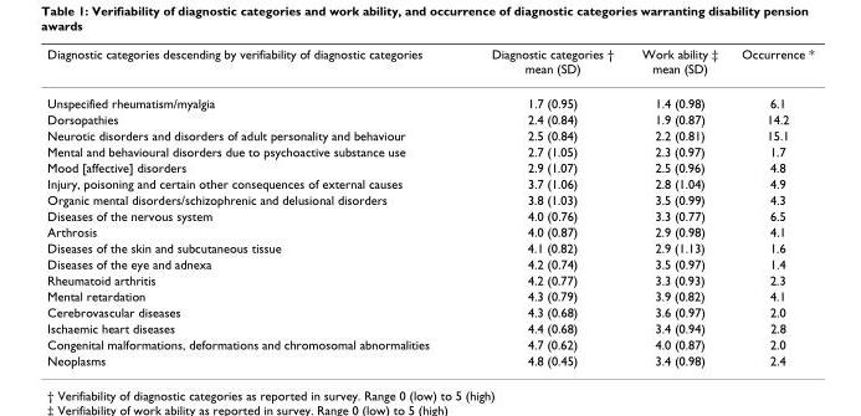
<table><thead><tr><td>Diagnostic categories descending by verifiability of diagnostic categories</td><td>Diagnostic categories † mean (SD)</td><td>Work ability ‡ mean (SD)</td><td>Occurrence *</td></tr></thead><tbody><tr><td>Unspecified rheumatism/myalgia</td><td>1.7 (0.95)</td><td>1.4 (0.98)</td><td>6.1</td></tr><tr><td>Dorsopathies</td><td>2.4 (0.84)</td><td>1.9 (0.87)</td><td>14.2</td></tr><tr><td>Neurotic disorders and disorders of adult personality and behaviour</td><td>2.5 (0.84)</td><td>2.2 (0.81)</td><td>15.1</td></tr><tr><td>Mental and behavioural disorders due to psychoactive substance use</td><td>2.7 (1.05)</td><td>2.3 (0.97)</td><td>1.7</td></tr><tr><td>Mood [affective] disorders</td><td>2.9 (1.07)</td><td>2.5 (0.96)</td><td>4.8</td></tr><tr><td>Injury, poisoning and certain other consequences of external causes</td><td>3.7 (1.06)</td><td>2.8 (1.04)</td><td>4.9</td></tr><tr><td>Organic mental disorders/schizophrenic and delusional disorders</td><td>3.8 (1.03)</td><td>3.5 (0.99)</td><td>4.3</td></tr><tr><td>Diseases of the nervous system</td><td>4.0 (0.76)</td><td>3.3 (0.77)</td><td>6.5</td></tr><tr><td>Arthrosis</td><td>4.0 (0.87)</td><td>2.9 (0.98)</td><td>4.1</td></tr><tr><td>Diseases of the skin and subcutaneous tissue</td><td>4.1 (0.82)</td><td>2.9 (1.13)</td><td>1.6</td></tr><tr><td>Diseases of the eye and adnexa</td><td>4.2 (0.74)</td><td>3.5 (0.97)</td><td>1.4</td></tr><tr><td>Rheumatoid arthritis</td><td>4.2 (0.77)</td><td>3.3 (0.93)</td><td>2.3</td></tr><tr><td>Mental retardation</td><td>4.3 (0.79)</td><td>3.9 (0.82)</td><td>4.1</td></tr><tr><td>Cerebrovascular diseases</td><td>4.3 (0.68)</td><td>3.6 (0.97)</td><td>2.0</td></tr><tr><td>Ischaemic heart diseases</td><td>4.4 (0.68)</td><td>3.4 (0.94)</td><td>2.8</td></tr><tr><td>Congenital malformations, deformations and chromosomal abnormalities</td><td>4.7 (0.62)</td><td>4.0 (0.87)</td><td>2.0</td></tr><tr><td>Neoplasms</td><td>4.8 (0.45)</td><td>3.4 (0.98)</td><td>2.4</td></tr></tbody></table>